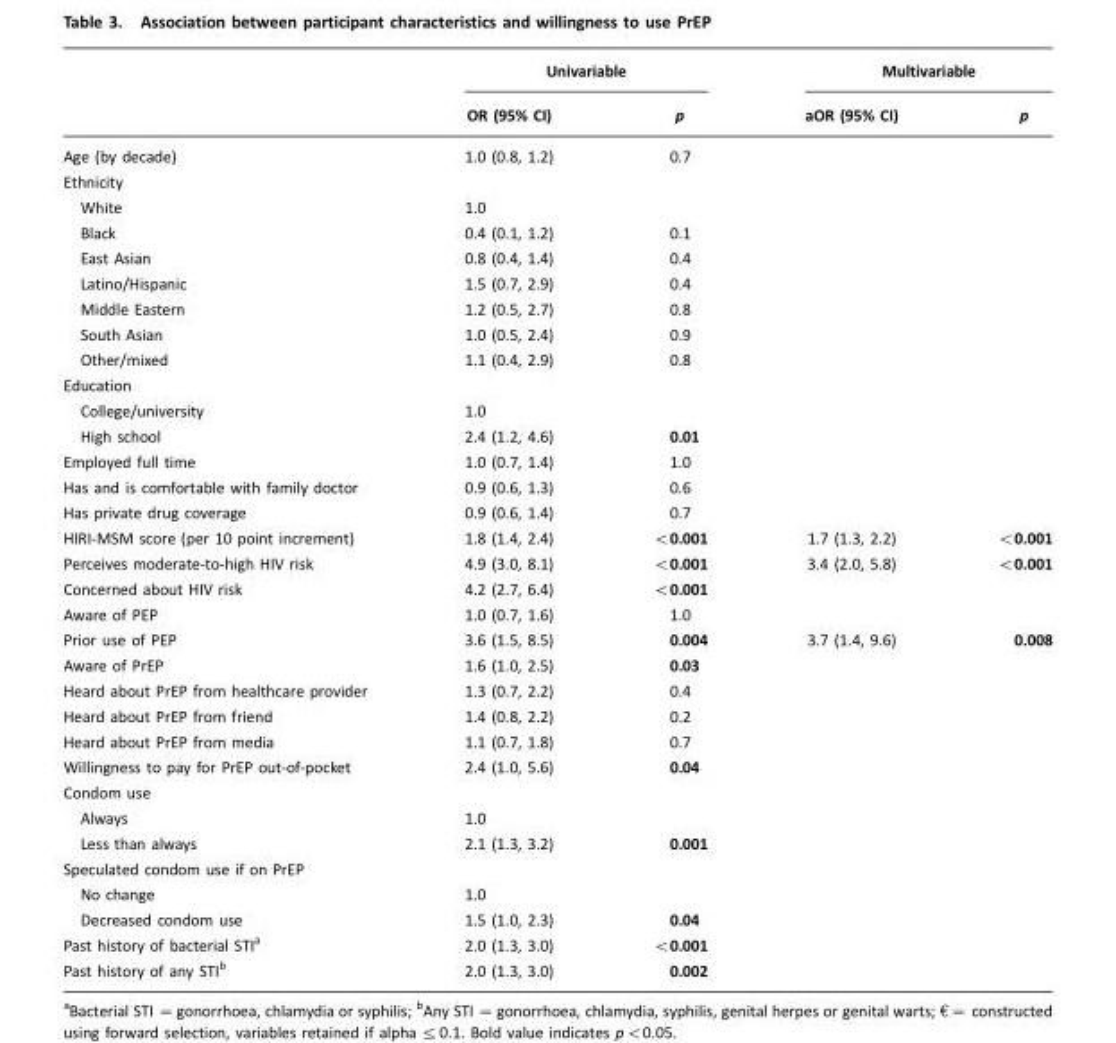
<table><thead><tr><td rowspan="2"></td><td colspan="2">Univariable</td><td colspan="2">Multivariable</td></tr><tr><td>OR (95% CI)</td><td>p</td><td>aOR (95% CI)</td><td>p</td></tr></thead><tbody><tr><td>Age (by decade)</td><td>1.0 (0.8, 1.2)</td><td>0.7</td><td></td><td></td></tr><tr><td colspan="5">Ethnicity</td></tr><tr><td>White</td><td>1.0</td><td></td><td></td><td></td></tr><tr><td>Black</td><td>0.4 (0.1, 1.2)</td><td>0.1</td><td></td><td></td></tr><tr><td>East Asian</td><td>0.8 (0.4, 1.4)</td><td>0.4</td><td></td><td></td></tr><tr><td>Latino/Hispanic</td><td>1.5 (0.7, 2.9)</td><td>0.4</td><td></td><td></td></tr><tr><td>Middle Eastern</td><td>1.2 (0.5, 2.7)</td><td>0.8</td><td></td><td></td></tr><tr><td>South Asian</td><td>1.0 (0.5, 2.4)</td><td>0.9</td><td></td><td></td></tr><tr><td>Other/mixed</td><td>1.1 (0.4, 2.9)</td><td>0.8</td><td></td><td></td></tr><tr><td colspan="5">Education</td></tr><tr><td>College/university</td><td>1.0</td><td></td><td></td><td></td></tr><tr><td>High school</td><td>2.4 (1.2, 4.6)</td><td>0.01</td><td></td><td></td></tr><tr><td>Employed full time</td><td>1.0 (0.7, 1.4)</td><td>1.0</td><td></td><td></td></tr><tr><td>Has and is comfortable with family doctor</td><td>0.9 (0.6, 1.3)</td><td>0.6</td><td></td><td></td></tr><tr><td>Has private drug coverage</td><td>0.9 (0.6, 1.4)</td><td>0.7</td><td></td><td></td></tr><tr><td>HIRI-MSM score (per 10 point increment)</td><td>1.8 (1.4, 2.4)</td><td>&lt;0.001</td><td>1.7 (1.3, 2.2)</td><td>&lt;0.001</td></tr><tr><td>Perceives moderate-to-high HIV risk</td><td>4.9 (3.0, 8.1)</td><td>&lt;0.001</td><td>3.4 (2.0, 5.8)</td><td>&lt;0.001</td></tr><tr><td>Concerned about HIV risk</td><td>4.2 (2.7, 6.4)</td><td>&lt;0.001</td><td></td><td></td></tr><tr><td>Aware of PEP</td><td>1.0 (0.7, 1.6)</td><td>1.0</td><td></td><td></td></tr><tr><td>Prior use of PEP</td><td>3.6 (1.5, 8.5)</td><td>0.004</td><td>3.7 (1.4, 9.6)</td><td>0.008</td></tr><tr><td>Aware of PrEP</td><td>1.6 (1.0, 2.5)</td><td>0.03</td><td></td><td></td></tr><tr><td>Heard about PrEP from healthcare provider</td><td>1.3 (0.7, 2.2)</td><td>0.4</td><td></td><td></td></tr><tr><td>Heard about PrEP from friend</td><td>1.4 (0.8, 2.2)</td><td>0.2</td><td></td><td></td></tr><tr><td>Heard about PrEP from media</td><td>1.1 (0.7, 1.8)</td><td>0.7</td><td></td><td></td></tr><tr><td>Willingness to pay for PrEP out-of-pocket</td><td>2.4 (1.0, 5.6)</td><td>0.04</td><td></td><td></td></tr><tr><td colspan="5">Condom use</td></tr><tr><td>Always</td><td>1.0</td><td></td><td></td><td></td></tr><tr><td>Less than always</td><td>2.1 (1.3, 3.2)</td><td>0.001</td><td></td><td></td></tr><tr><td colspan="5">Speculated condom use if on PrEP</td></tr><tr><td>No change</td><td>1.0</td><td></td><td></td><td></td></tr><tr><td>Decreased condom use</td><td>1.5 (1.0, 2.3)</td><td>0.04</td><td></td><td></td></tr><tr><td>Past history of bacterial STI<sup>a</sup></td><td>2.0 (1.3, 3.0)</td><td>&lt;0.001</td><td></td><td></td></tr><tr><td>Past history of any STI<sup>b</sup></td><td>2.0 (1.3, 3.0)</td><td>0.002</td><td></td><td></td></tr></tbody></table>